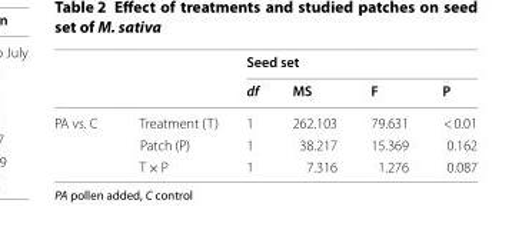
<table><thead><tr><td rowspan="2"></td><td rowspan="2"></td><td colspan="4">Seed set</td></tr><tr><td>df</td><td>MS</td><td>F</td><td>P</td></tr></thead><tbody><tr><td rowspan="3">PA vs. C</td><td>Treatment (T)</td><td>1</td><td>262.103</td><td>79.631</td><td>&lt; 0.01</td></tr><tr><td>Patch (P)</td><td>1</td><td>38.217</td><td>15.369</td><td>0.162</td></tr><tr><td>T × P</td><td>1</td><td>7.316</td><td>1.276</td><td>0.087</td></tr></tbody></table>